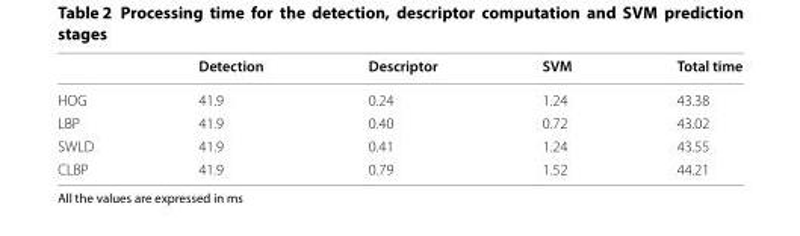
<table><thead><tr><td></td><td>Detection</td><td>Descriptor</td><td>SVM</td><td>Total time</td></tr></thead><tbody><tr><td>HOG</td><td>41.9</td><td>0.24</td><td>1.24</td><td>43.38</td></tr><tr><td>LBP</td><td>41.9</td><td>0.40</td><td>0.72</td><td>43.02</td></tr><tr><td>SWLD</td><td>41.9</td><td>0.41</td><td>1.24</td><td>43.55</td></tr><tr><td>CLBP</td><td>41.9</td><td>0.79</td><td>1.52</td><td>44.21</td></tr></tbody></table>